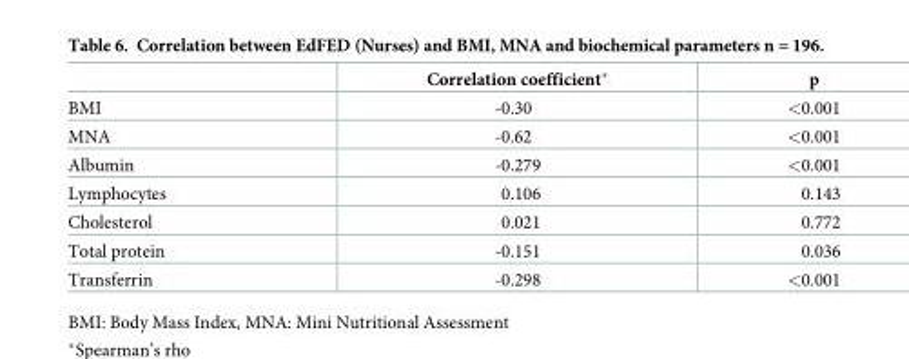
<table><thead><tr><td></td><td>Correlation coefficient*</td><td>p</td></tr></thead><tbody><tr><td>BMI</td><td>-0.30</td><td>&lt;0.001</td></tr><tr><td>MNA</td><td>-0.62</td><td>&lt;0.001</td></tr><tr><td>Albumin</td><td>-0.279</td><td>&lt;0.001</td></tr><tr><td>Lymphocytes</td><td>0.106</td><td>0.143</td></tr><tr><td>Cholesterol</td><td>0.021</td><td>0.772</td></tr><tr><td>Total protein</td><td>-0.151</td><td>0.036</td></tr><tr><td>Transferrin</td><td>-0.298</td><td>&lt;0.001</td></tr></tbody></table>